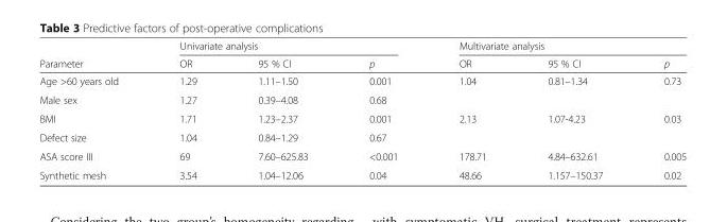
<table><thead><tr><td rowspan="2">Parameter</td><td colspan="3">Univariate analysis</td><td colspan="3">Multivariate analysis</td></tr><tr><td>OR</td><td>95 % CI</td><td>p</td><td>OR</td><td>95 % CI</td><td>p</td></tr></thead><tbody><tr><td>Age &gt;60 years old</td><td>1.29</td><td>1.11–1.50</td><td>0.001</td><td>1.04</td><td>0.81–1.34</td><td>0.73</td></tr><tr><td>Male sex</td><td>1.27</td><td>0.39–4.08</td><td>0.68</td><td></td><td></td><td></td></tr><tr><td>BMI</td><td>1.71</td><td>1.23–2.37</td><td>0.001</td><td>2.13</td><td>1.07-4.23</td><td>0.03</td></tr><tr><td>Defect size</td><td>1.04</td><td>0.84–1.29</td><td>0.67</td><td></td><td></td><td></td></tr><tr><td>ASA score III</td><td>69</td><td>7.60–625.83</td><td>&lt;0.001</td><td>178.71</td><td>4.84–632.61</td><td>0.005</td></tr><tr><td>Synthetic mesh</td><td>3.54</td><td>1.04–12.06</td><td>0.04</td><td>48.66</td><td>1.157–150.37</td><td>0.02</td></tr></tbody></table>